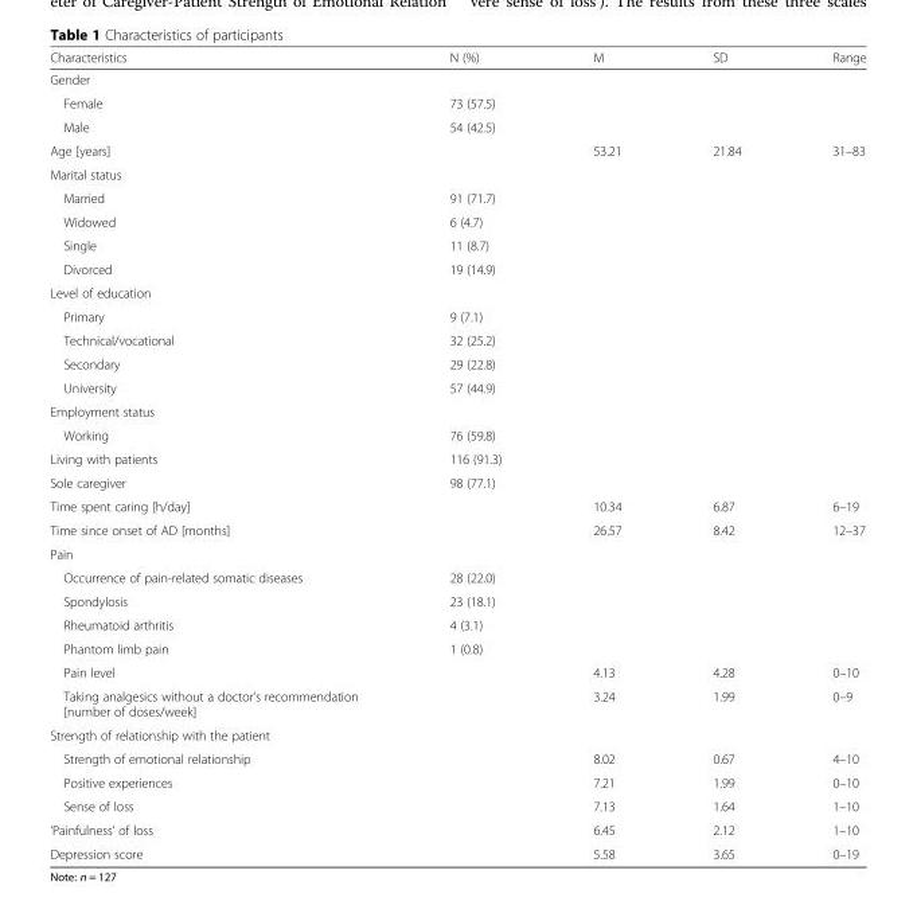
<table><thead><tr><td>Characteristics</td><td>N (%)</td><td>M</td><td>SD</td><td>Range</td></tr></thead><tbody><tr><td colspan="5">Gender</td></tr><tr><td>Female</td><td>73 (57.5)</td><td></td><td></td><td></td></tr><tr><td>Male</td><td>54 (42.5)</td><td></td><td></td><td></td></tr><tr><td>Age [years]</td><td></td><td>53.21</td><td>21.84</td><td>31–83</td></tr><tr><td colspan="5">Marital status</td></tr><tr><td>Married</td><td>91 (71.7)</td><td></td><td></td><td></td></tr><tr><td>Widowed</td><td>6 (4.7)</td><td></td><td></td><td></td></tr><tr><td>Single</td><td>11 (8.7)</td><td></td><td></td><td></td></tr><tr><td>Divorced</td><td>19 (14.9)</td><td></td><td></td><td></td></tr><tr><td colspan="5">Level of education</td></tr><tr><td>Primary</td><td>9 (7.1)</td><td></td><td></td><td></td></tr><tr><td>Technical/vocational</td><td>32 (25.2)</td><td></td><td></td><td></td></tr><tr><td>Secondary</td><td>29 (22.8)</td><td></td><td></td><td></td></tr><tr><td>University</td><td>57 (44.9)</td><td></td><td></td><td></td></tr><tr><td colspan="5">Employment status</td></tr><tr><td>Working</td><td>76 (59.8)</td><td></td><td></td><td></td></tr><tr><td>Living with patients</td><td>116 (91.3)</td><td></td><td></td><td></td></tr><tr><td>Sole caregiver</td><td>98 (77.1)</td><td></td><td></td><td></td></tr><tr><td>Time spent caring [h/day]</td><td></td><td>10.34</td><td>6.87</td><td>6–19</td></tr><tr><td>Time since onset of AD [months]</td><td></td><td>26.57</td><td>8.42</td><td>12–37</td></tr><tr><td colspan="5">Pain</td></tr><tr><td>Occurrence of pain-related somatic diseases</td><td>28 (22.0)</td><td></td><td></td><td></td></tr><tr><td>Spondylosis</td><td>23 (18.1)</td><td></td><td></td><td></td></tr><tr><td>Rheumatoid arthritis</td><td>4 (3.1)</td><td></td><td></td><td></td></tr><tr><td>Phantom limb pain</td><td>1 (0.8)</td><td></td><td></td><td></td></tr><tr><td>Pain level</td><td></td><td>4.13</td><td>4.28</td><td>0–10</td></tr><tr><td>Taking analgesics without a doctor’s recommendation [number of doses/week]</td><td></td><td>3.24</td><td>1.99</td><td>0–9</td></tr><tr><td colspan="5">Strength of relationship with the patient</td></tr><tr><td>Strength of emotional relationship</td><td></td><td>8.02</td><td>0.67</td><td>4–10</td></tr><tr><td>Positive experiences</td><td></td><td>7.21</td><td>1.99</td><td>0–10</td></tr><tr><td>Sense of loss</td><td></td><td>7.13</td><td>1.64</td><td>1–10</td></tr><tr><td>‘Painfulness’ of loss</td><td></td><td>6.45</td><td>2.12</td><td>1–10</td></tr><tr><td>Depression score</td><td></td><td>5.58</td><td>3.65</td><td>0–19</td></tr></tbody></table>